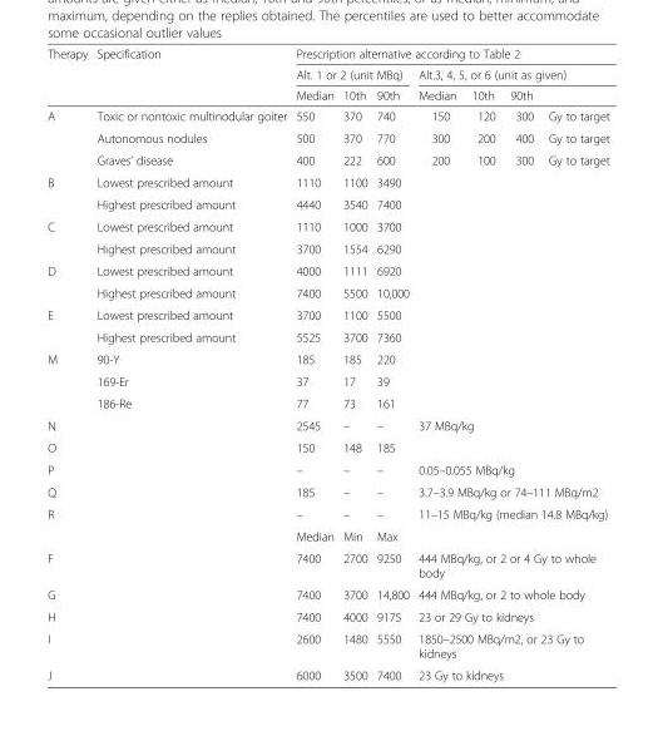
<table><thead><tr><td rowspan="3">Therapy</td><td rowspan="3">Specification</td><td colspan="7">Prescription alternative according to Table 2</td></tr><tr><td colspan="3">Alt. 1 or 2 (unit MBq)</td><td colspan="4">Alt.3, 4, 5, or 6 (unit as given)</td></tr><tr><td>Median</td><td>10th</td><td>90th</td><td>Median</td><td>10th</td><td>90th</td><td></td></tr></thead><tbody><tr><td rowspan="3">A</td><td>Toxic or nontoxic multinodular goiter</td><td>550</td><td>370</td><td>740</td><td>150</td><td>120</td><td>300</td><td>Gy to target</td></tr><tr><td>Autonomous nodules</td><td>500</td><td>370</td><td>770</td><td>300</td><td>200</td><td>400</td><td>Gy to target</td></tr><tr><td>Graves’ disease</td><td>400</td><td>222</td><td>600</td><td>200</td><td>100</td><td>300</td><td>Gy to target</td></tr><tr><td rowspan="2">B</td><td>Lowest prescribed amount</td><td>1110</td><td>1100</td><td>3490</td><td></td><td></td><td></td><td></td></tr><tr><td>Highest prescribed amount</td><td>4440</td><td>3540</td><td>7400</td><td></td><td></td><td></td><td></td></tr><tr><td rowspan="2">C</td><td>Lowest prescribed amount</td><td>1110</td><td>1000</td><td>3700</td><td></td><td></td><td></td><td></td></tr><tr><td>Highest prescribed amount</td><td>3700</td><td>1554</td><td>6290</td><td></td><td></td><td></td><td></td></tr><tr><td rowspan="2">D</td><td>Lowest prescribed amount</td><td>4000</td><td>1111</td><td>6920</td><td></td><td></td><td></td><td></td></tr><tr><td>Highest prescribed amount</td><td>7400</td><td>5500</td><td>10,000</td><td></td><td></td><td></td><td></td></tr><tr><td rowspan="2">E</td><td>Lowest prescribed amount</td><td>3700</td><td>1100</td><td>5500</td><td></td><td></td><td></td><td></td></tr><tr><td>Highest prescribed amount</td><td>5525</td><td>3700</td><td>7360</td><td></td><td></td><td></td><td></td></tr><tr><td rowspan="3">M</td><td>90-Y</td><td>185</td><td>185</td><td>220</td><td></td><td></td><td></td><td></td></tr><tr><td>169-Er</td><td>37</td><td>17</td><td>39</td><td></td><td></td><td></td><td></td></tr><tr><td>186-Re</td><td>77</td><td>73</td><td>161</td><td></td><td></td><td></td><td></td></tr><tr><td>N</td><td></td><td>2545</td><td>–</td><td>–</td><td colspan="4">37 MBq/kg</td></tr><tr><td>O</td><td></td><td>150</td><td>148</td><td>185</td><td></td><td></td><td></td><td></td></tr><tr><td>P</td><td></td><td>–</td><td>–</td><td>–</td><td colspan="4">0.05–0.055 MBq/kg</td></tr><tr><td>Q</td><td></td><td>185</td><td>–</td><td>–</td><td colspan="4">3.7–3.9 MBq/kg or 74–111 MBq/m2</td></tr><tr><td rowspan="2">R</td><td></td><td>–</td><td>–</td><td>–</td><td colspan="4">11–15 MBq/kg (median 14.8 MBq/kg)</td></tr><tr><td></td><td>Median</td><td>Min</td><td>Max</td><td></td><td></td><td></td><td></td></tr><tr><td>F</td><td></td><td>7400</td><td>2700</td><td>9250</td><td colspan="4">444 MBq/kg, or 2 or 4 Gy to whole body</td></tr><tr><td>G</td><td></td><td>7400</td><td>3700</td><td>14,800</td><td colspan="4">444 MBq/kg, or 2 to whole body</td></tr><tr><td>H</td><td></td><td>7400</td><td>4000</td><td>9175</td><td colspan="4">23 or 29 Gy to kidneys</td></tr><tr><td>I</td><td></td><td>2600</td><td>1480</td><td>5550</td><td colspan="4">1850–2500 MBq/m2, or 23 Gy to kidneys</td></tr><tr><td>J</td><td></td><td>6000</td><td>3500</td><td>7400</td><td colspan="4">23 Gy to kidneys</td></tr></tbody></table>